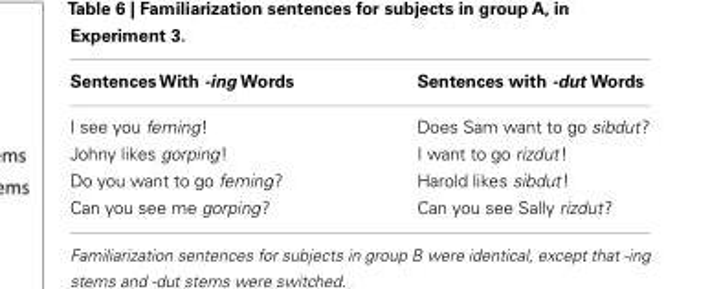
<table><thead><tr><td>Sentences With -ing Words</td><td>Sentences with -dut Words</td></tr></thead><tbody><tr><td>I see you feming!</td><td>Does Sam want to go sibdut?</td></tr><tr><td>Johny likes gorping!</td><td>I want to go rizdut!</td></tr><tr><td>Do you want to go feming?</td><td>Harold likes sibdut!</td></tr><tr><td>Can you see me gorping?</td><td>Can you see Sally rizdut?</td></tr></tbody></table>